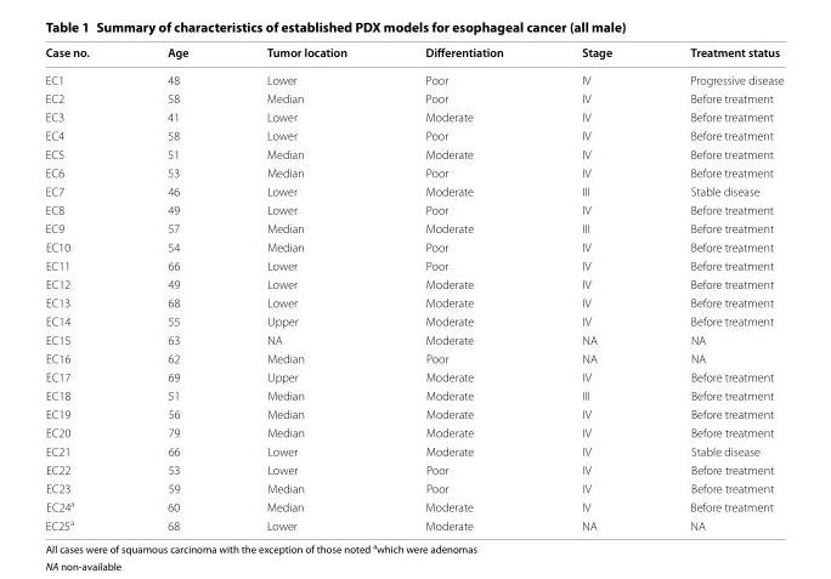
<table><thead><tr><td>Case no.</td><td>Age</td><td>Tumor location</td><td>Differentiation</td><td>Stage</td><td>Treatment status</td></tr></thead><tbody><tr><td>EC1</td><td>48</td><td>Lower</td><td>Poor</td><td>IV</td><td>Progressive disease</td></tr><tr><td>EC2</td><td>58</td><td>Median</td><td>Poor</td><td>IV</td><td>Before treatment</td></tr><tr><td>EC3</td><td>41</td><td>Lower</td><td>Moderate</td><td>IV</td><td>Before treatment</td></tr><tr><td>EC4</td><td>58</td><td>Lower</td><td>Poor</td><td>IV</td><td>Before treatment</td></tr><tr><td>EC5</td><td>51</td><td>Median</td><td>Moderate</td><td>IV</td><td>Before treatment</td></tr><tr><td>EC6</td><td>53</td><td>Median</td><td>Poor</td><td>IV</td><td>Before treatment</td></tr><tr><td>EC7</td><td>46</td><td>Lower</td><td>Moderate</td><td>III</td><td>Stable disease</td></tr><tr><td>EC8</td><td>49</td><td>Lower</td><td>Poor</td><td>IV</td><td>Before treatment</td></tr><tr><td>EC9</td><td>57</td><td>Median</td><td>Moderate</td><td>III</td><td>Before treatment</td></tr><tr><td>EC10</td><td>54</td><td>Median</td><td>Poor</td><td>IV</td><td>Before treatment</td></tr><tr><td>EC11</td><td>66</td><td>Lower</td><td>Poor</td><td>IV</td><td>Before treatment</td></tr><tr><td>EC12</td><td>49</td><td>Lower</td><td>Moderate</td><td>IV</td><td>Before treatment</td></tr><tr><td>EC13</td><td>68</td><td>Lower</td><td>Moderate</td><td>IV</td><td>Before treatment</td></tr><tr><td>EC14</td><td>55</td><td>Upper</td><td>Moderate</td><td>IV</td><td>Before treatment</td></tr><tr><td>EC15</td><td>63</td><td>NA</td><td>Moderate</td><td>NA</td><td>NA</td></tr><tr><td>EC16</td><td>62</td><td>Median</td><td>Poor</td><td>NA</td><td>NA</td></tr><tr><td>EC17</td><td>69</td><td>Upper</td><td>Moderate</td><td>IV</td><td>Before treatment</td></tr><tr><td>EC18</td><td>51</td><td>Median</td><td>Moderate</td><td>III</td><td>Before treatment</td></tr><tr><td>EC19</td><td>56</td><td>Median</td><td>Moderate</td><td>IV</td><td>Before treatment</td></tr><tr><td>EC20</td><td>79</td><td>Median</td><td>Moderate</td><td>IV</td><td>Before treatment</td></tr><tr><td>EC21</td><td>66</td><td>Lower</td><td>Moderate</td><td>IV</td><td>Stable disease</td></tr><tr><td>EC22</td><td>53</td><td>Lower</td><td>Poor</td><td>IV</td><td>Before treatment</td></tr><tr><td>EC23</td><td>59</td><td>Median</td><td>Poor</td><td>IV</td><td>Before treatment</td></tr><tr><td>EC24<sup>a</sup></td><td>60</td><td>Median</td><td>Moderate</td><td>IV</td><td>Before treatment</td></tr><tr><td>EC25<sup>a</sup></td><td>68</td><td>Lower</td><td>Moderate</td><td>NA</td><td>NA</td></tr></tbody></table>